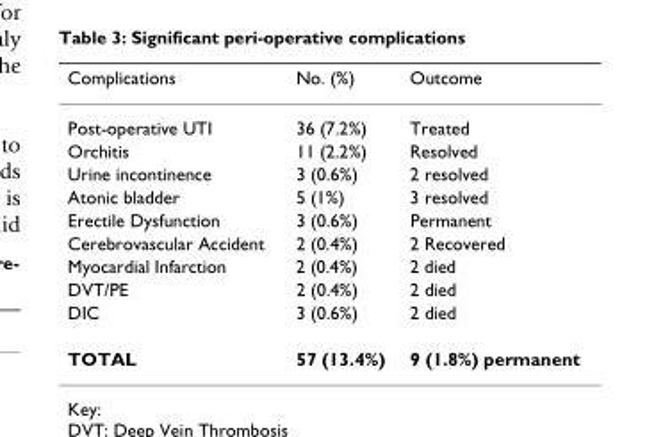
<table><thead><tr><td>Complications</td><td>No. (%)</td><td>Outcome</td></tr></thead><tbody><tr><td>Post-operative UTI</td><td>36 (7.2%)</td><td>Treated</td></tr><tr><td>Orchitis</td><td>11 (2.2%)</td><td>Resolved</td></tr><tr><td>Urine incontinence</td><td>3 (0.6%)</td><td>2 resolved</td></tr><tr><td>Atonic bladder</td><td>5 (1%)</td><td>3 resolved</td></tr><tr><td>Erectile Dysfunction</td><td>3 (0.6%)</td><td>Permanent</td></tr><tr><td>Cerebrovascular Accident</td><td>2 (0.4%)</td><td>2 Recovered</td></tr><tr><td>Myocardial Infarction</td><td>2 (0.4%)</td><td>2 died</td></tr><tr><td>DVT/PE</td><td>2 (0.4%)</td><td>2 died</td></tr><tr><td>DIC</td><td>3 (0.6%)</td><td>2 died</td></tr><tr><td>TOTAL</td><td>57 (13.4%)</td><td>9 (1.8%) permanent</td></tr></tbody></table>